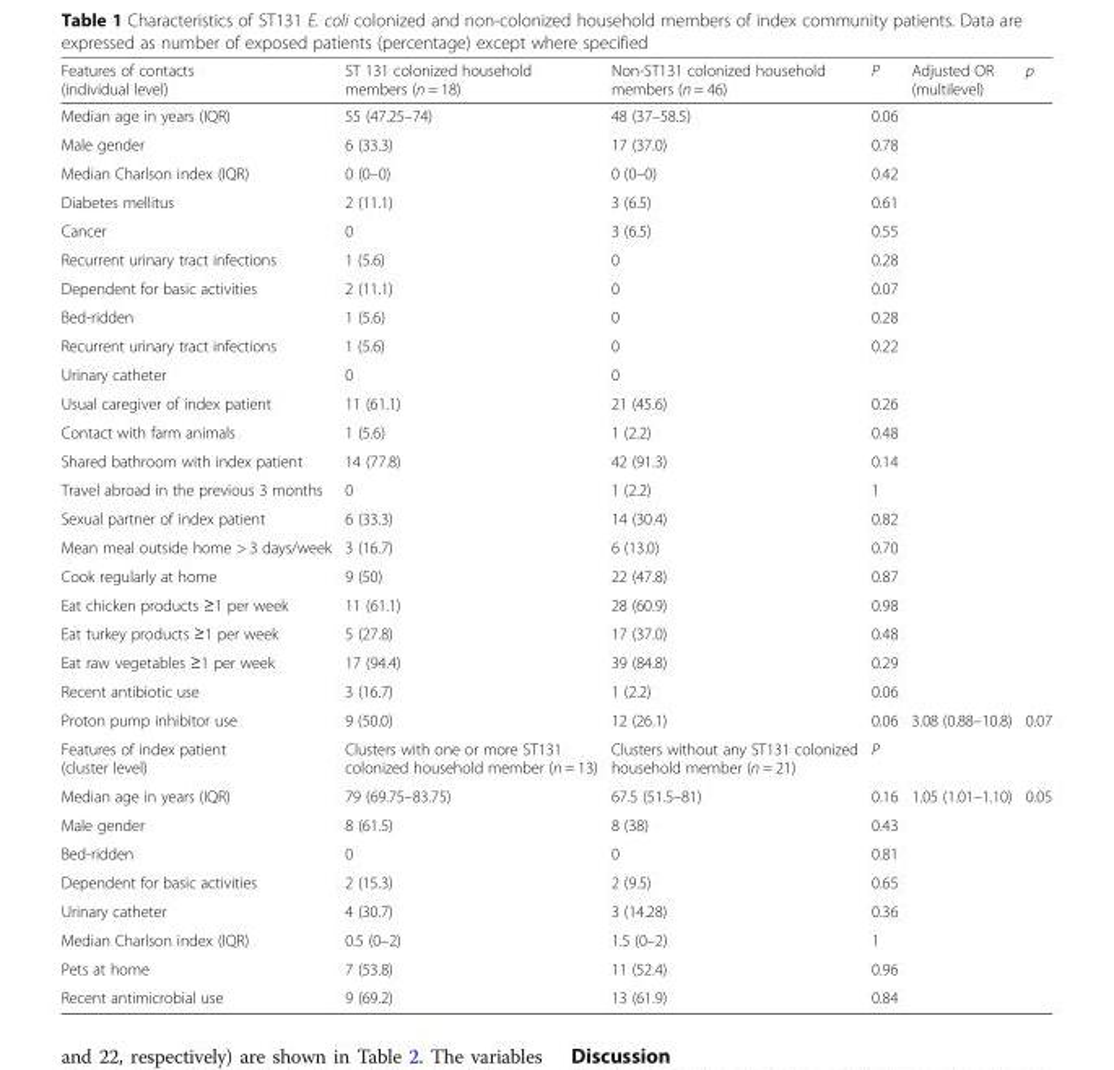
<table><thead><tr><td>Features of contacts (individual level)</td><td>ST 131 colonized household members (n = 18)</td><td>Non-ST131 colonized household members (n = 46)</td><td>P</td><td>Adjusted OR (multilevel)</td><td>p</td></tr></thead><tbody><tr><td>Median age in years (IQR)</td><td>55 (47.25–74)</td><td>48 (37–58.5)</td><td>0.06</td><td></td><td></td></tr><tr><td>Male gender</td><td>6 (33.3)</td><td>17 (37.0)</td><td>0.78</td><td></td><td></td></tr><tr><td>Median Charlson index (IQR)</td><td>0 (0–0)</td><td>0 (0–0)</td><td>0.42</td><td></td><td></td></tr><tr><td>Diabetes mellitus</td><td>2 (11.1)</td><td>3 (6.5)</td><td>0.61</td><td></td><td></td></tr><tr><td>Cancer</td><td>0</td><td>3 (6.5)</td><td>0.55</td><td></td><td></td></tr><tr><td>Recurrent urinary tract infections</td><td>1 (5.6)</td><td>0</td><td>0.28</td><td></td><td></td></tr><tr><td>Dependent for basic activities</td><td>2 (11.1)</td><td>0</td><td>0.07</td><td></td><td></td></tr><tr><td>Bed-ridden</td><td>1 (5.6)</td><td>0</td><td>0.28</td><td></td><td></td></tr><tr><td>Recurrent urinary tract infections</td><td>1 (5.6)</td><td>0</td><td>0.22</td><td></td><td></td></tr><tr><td>Urinary catheter</td><td>0</td><td>0</td><td></td><td></td><td></td></tr><tr><td>Usual caregiver of index patient</td><td>11 (61.1)</td><td>21 (45.6)</td><td>0.26</td><td></td><td></td></tr><tr><td>Contact with farm animals</td><td>1 (5.6)</td><td>1 (2.2)</td><td>0.48</td><td></td><td></td></tr><tr><td>Shared bathroom with index patient</td><td>14 (77.8)</td><td>42 (91.3)</td><td>0.14</td><td></td><td></td></tr><tr><td>Travel abroad in the previous 3 months</td><td>0</td><td>1 (2.2)</td><td>1</td><td></td><td></td></tr><tr><td>Sexual partner of index patient</td><td>6 (33.3)</td><td>14 (30.4)</td><td>0.82</td><td></td><td></td></tr><tr><td>Mean meal outside home &gt; 3 days/week</td><td>3 (16.7)</td><td>6 (13.0)</td><td>0.70</td><td></td><td></td></tr><tr><td>Cook regularly at home</td><td>9 (50)</td><td>22 (47.8)</td><td>0.87</td><td></td><td></td></tr><tr><td>Eat chicken products ≥1 per week</td><td>11 (61.1)</td><td>28 (60.9)</td><td>0.98</td><td></td><td></td></tr><tr><td>Eat turkey products ≥1 per week</td><td>5 (27.8)</td><td>17 (37.0)</td><td>0.48</td><td></td><td></td></tr><tr><td>Eat raw vegetables ≥1 per week</td><td>17 (94.4)</td><td>39 (84.8)</td><td>0.29</td><td></td><td></td></tr><tr><td>Recent antibiotic use</td><td>3 (16.7)</td><td>1 (2.2)</td><td>0.06</td><td></td><td></td></tr><tr><td>Proton pump inhibitor use</td><td>9 (50.0)</td><td>12 (26.1)</td><td>0.06</td><td>3.08 (0.88–10.8)</td><td>0.07</td></tr><tr><td>Features of index patient (cluster level)</td><td>Clusters with one or more ST131 colonized household member (n = 13)</td><td>Clusters without any ST131 colonized household member (n = 21)</td><td>P</td><td></td><td></td></tr><tr><td>Median age in years (IQR)</td><td>79 (69.75–83.75)</td><td>67.5 (51.5–81)</td><td>0.16</td><td>1.05 (1.01–1.10)</td><td>0.05</td></tr><tr><td>Male gender</td><td>8 (61.5)</td><td>8 (38)</td><td>0.43</td><td></td><td></td></tr><tr><td>Bed-ridden</td><td>0</td><td>0</td><td>0.81</td><td></td><td></td></tr><tr><td>Dependent for basic activities</td><td>2 (15.3)</td><td>2 (9.5)</td><td>0.65</td><td></td><td></td></tr><tr><td>Urinary catheter</td><td>4 (30.7)</td><td>3 (14.28)</td><td>0.36</td><td></td><td></td></tr><tr><td>Median Charlson index (IQR)</td><td>0.5 (0–2)</td><td>1.5 (0–2)</td><td>1</td><td></td><td></td></tr><tr><td>Pets at home</td><td>7 (53.8)</td><td>11 (52.4)</td><td>0.96</td><td></td><td></td></tr><tr><td>Recent antimicrobial use</td><td>9 (69.2)</td><td>13 (61.9)</td><td>0.84</td><td></td><td></td></tr></tbody></table>